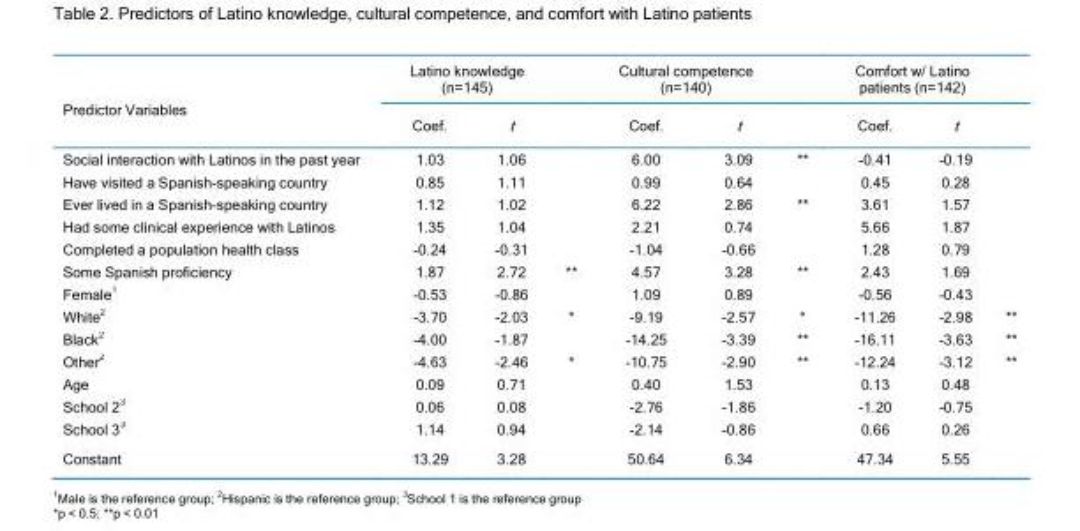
<table><thead><tr><td rowspan="2">Predictor Variables</td><td colspan="2">Latino knowledge (n=145)</td><td rowspan="2"></td><td colspan="2">Cultural competence (n=140)</td><td rowspan="2"></td><td colspan="2">Comfort w/ Latino patients (n=142)</td><td rowspan="2"></td></tr><tr><td>Coef.</td><td>t</td><td>Coef.</td><td>t</td><td>Coef.</td><td>t</td></tr></thead><tbody><tr><td>Social interaction with Latinos in the past year</td><td>1.03</td><td>1.06</td><td></td><td>6.00</td><td>3.09</td><td>**</td><td>-0.41</td><td>-0.19</td><td></td></tr><tr><td>Have visited a Spanish-speaking country</td><td>0.85</td><td>1.11</td><td></td><td>0.99</td><td>0.64</td><td></td><td>0.45</td><td>0.28</td><td></td></tr><tr><td>Ever lived in a Spanish-speaking country</td><td>1.12</td><td>1.02</td><td></td><td>6.22</td><td>2.86</td><td>**</td><td>3.61</td><td>1.57</td><td></td></tr><tr><td>Had some clinical experience with Latinos</td><td>1.35</td><td>1.04</td><td></td><td>2.21</td><td>0.74</td><td></td><td>5.66</td><td>1.87</td><td></td></tr><tr><td>Completed a population health class</td><td>-0.24</td><td>-0.31</td><td></td><td>-1.04</td><td>-0.66</td><td></td><td>1.28</td><td>0.79</td><td></td></tr><tr><td>Some Spanish proficiency</td><td>1.87</td><td>2.72</td><td>**</td><td>4.57</td><td>3.28</td><td>**</td><td>2.43</td><td>1.69</td><td></td></tr><tr><td>Female<sup>1</sup></td><td>-0.53</td><td>-0.86</td><td></td><td>1.09</td><td>0.89</td><td></td><td>-0.56</td><td>-0.43</td><td></td></tr><tr><td>White<sup>2</sup></td><td>-3.70</td><td>-2.03</td><td>*</td><td>-9.19</td><td>-2.57</td><td>*</td><td>-11.26</td><td>-2.98</td><td>**</td></tr><tr><td>Black<sup>2</sup></td><td>-4.00</td><td>-1.87</td><td></td><td>-14.25</td><td>-3.39</td><td>**</td><td>-16.11</td><td>-3.63</td><td>**</td></tr><tr><td>Other<sup>2</sup></td><td>-4.63</td><td>-2.46</td><td>*</td><td>-10.75</td><td>-2.90</td><td>**</td><td>-12.24</td><td>-3.12</td><td>**</td></tr><tr><td>Age</td><td>0.09</td><td>0.71</td><td></td><td>0.40</td><td>1.53</td><td></td><td>0.13</td><td>0.48</td><td></td></tr><tr><td>School 2<sup>3</sup></td><td>0.06</td><td>0.08</td><td></td><td>-2.76</td><td>-1.86</td><td></td><td>-1.20</td><td>-0.75</td><td></td></tr><tr><td>School 3<sup>3</sup></td><td>1.14</td><td>0.94</td><td></td><td>-2.14</td><td>-0.86</td><td></td><td>0.66</td><td>0.26</td><td></td></tr><tr><td>Constant</td><td>13.29</td><td>3.28</td><td></td><td>50.64</td><td>6.34</td><td></td><td>47.34</td><td>5.55</td><td></td></tr></tbody></table>